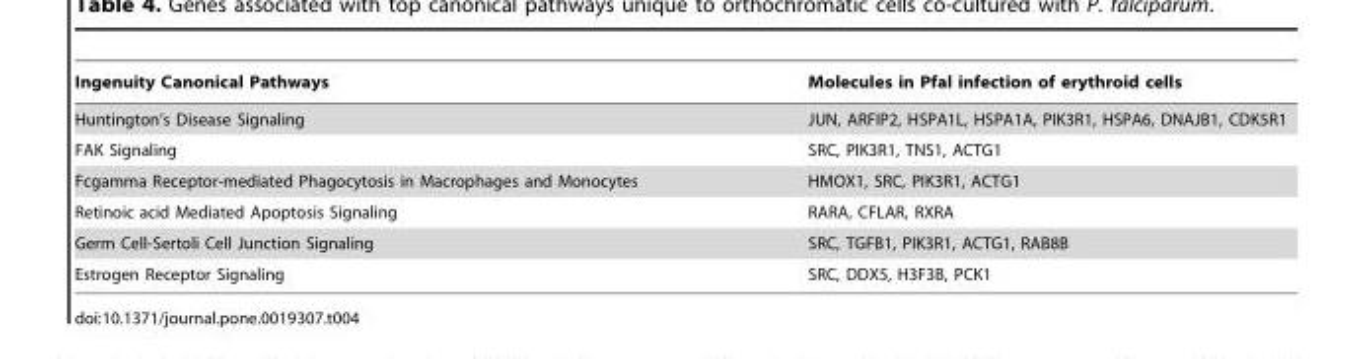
<table><thead><tr><td>Ingenuity Canonical Pathways</td><td>Molecules in Pfal infection of erythroid cells</td></tr></thead><tbody><tr><td>Huntington’s Disease Signaling</td><td>JUN, ARFIP2, HSPA1L, HSPA1A, PIK3R1, HSPA6, DNAJB1, CDK5R1</td></tr><tr><td>FAK Signaling</td><td>SRC, PIK3R1, TNS1, ACTG1</td></tr><tr><td>Fcgamma Receptor-mediated Phagocytosis in Macrophages and Monocytes</td><td>HMOX1, SRC, PIK3R1, ACTG1</td></tr><tr><td>Retinoic acid Mediated Apoptosis Signaling</td><td>RARA, CFLAR, RXRA</td></tr><tr><td>Germ Cell-Sertoli Cell Junction Signaling</td><td>SRC, TGFB1, PIK3R1, ACTG1, RAB8B</td></tr><tr><td>Estrogen Receptor Signaling</td><td>SRC, DDX5, H3F3B, PCK1</td></tr></tbody></table>